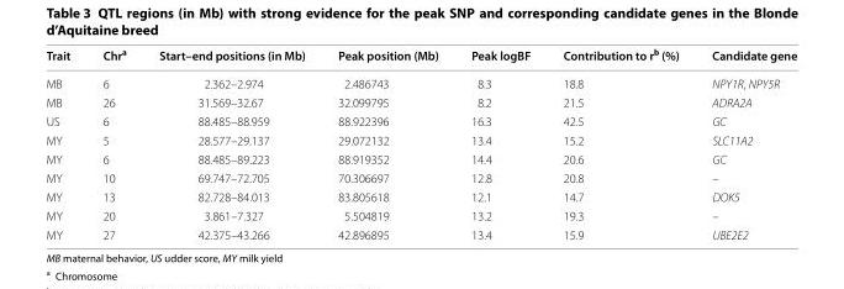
<table><thead><tr><td>Trait</td><td>Chr<sup>a</sup></td><td>Start–end positions (in Mb)</td><td>Peak position (Mb)</td><td>Peak logBF</td><td>Contribution to r<sup>b</sup> (%)</td><td>Candidate gene</td></tr></thead><tbody><tr><td>MB</td><td>6</td><td>2.362–2.974</td><td>2.486743</td><td>8.3</td><td>18.8</td><td>NPY1R, NPY5R</td></tr><tr><td>MB</td><td>26</td><td>31.569–32.67</td><td>32.099795</td><td>8.2</td><td>21.5</td><td>ADRA2A</td></tr><tr><td>US</td><td>6</td><td>88.485–88.959</td><td>88.922396</td><td>16.3</td><td>42.5</td><td>GC</td></tr><tr><td>MY</td><td>5</td><td>28.577–29.137</td><td>29.072132</td><td>13.4</td><td>15.2</td><td>SLC11A2</td></tr><tr><td>MY</td><td>6</td><td>88.485–89.223</td><td>88.919352</td><td>14.4</td><td>20.6</td><td>GC</td></tr><tr><td>MY</td><td>10</td><td>69.747–72.705</td><td>70.306697</td><td>12.8</td><td>20.8</td><td>–</td></tr><tr><td>MY</td><td>13</td><td>82.728–84.013</td><td>83.805618</td><td>12.1</td><td>14.7</td><td>DOK5</td></tr><tr><td>MY</td><td>20</td><td>3.861–7.327</td><td>5.504819</td><td>13.2</td><td>19.3</td><td>–</td></tr><tr><td>MY</td><td>27</td><td>42.375–43.266</td><td>42.896895</td><td>13.4</td><td>15.9</td><td>UBE2E2</td></tr></tbody></table>